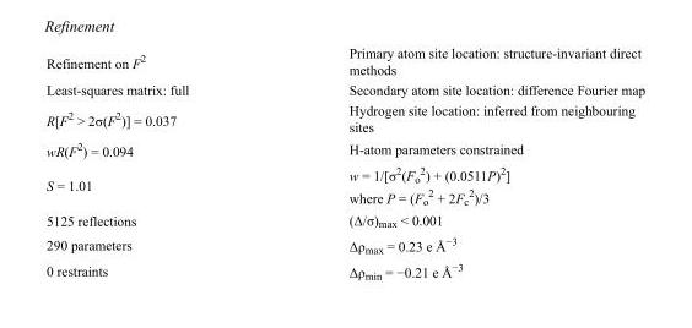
<table><tbody><tr><td>Refinement on F<sup>2</sup></td><td>Primary atom site location: structure-invariant direct methods</td></tr><tr><td>Least-squares matrix: full</td><td>Secondary atom site location: difference Fourier map</td></tr><tr><td>R[F<sup>2</sup> &gt; 2σ(F<sup>2</sup>)] = 0.037</td><td>Hydrogen site location: inferred from neighbouring sites</td></tr><tr><td>wR(F<sup>2</sup>) = 0.094</td><td>H-atom parameters constrained</td></tr><tr><td>S = 1.01</td><td>w = 1/[σ<sup>2</sup>(F<sub>o</sub> <sup>2</sup>) + (0.0511P)<sup>2</sup>] where P = (F<sub>o</sub> <sup>2</sup> + 2F<sub>c</sub> <sup>2</sup>)/3</td></tr><tr><td>5125 reflections</td><td>(Δ/σ)<sub>max</sub> &lt; 0.001</td></tr><tr><td>290 parameters</td><td>Δρ<sub>max</sub> = 0.23 e Å<sup>−3</sup></td></tr><tr><td>0 restraints</td><td>Δρ<sub>min</sub> = −0.21 e Å<sup>−3</sup></td></tr></tbody></table>